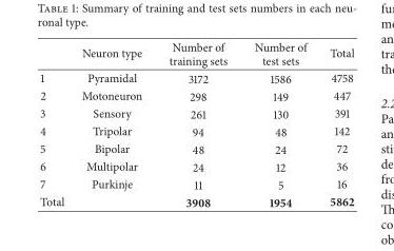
<table><thead><tr><td></td><td>Neuron type</td><td>Number of training sets</td><td>Number of test sets</td><td>Total</td></tr></thead><tbody><tr><td>1</td><td>Pyramidal</td><td>3172</td><td>1586</td><td>4758</td></tr><tr><td>2</td><td>Motoneuron</td><td>298</td><td>149</td><td>447</td></tr><tr><td>3</td><td>Sensory</td><td>261</td><td>130</td><td>391</td></tr><tr><td>4</td><td>Tripolar</td><td>94</td><td>48</td><td>142</td></tr><tr><td>5</td><td>Bipolar</td><td>48</td><td>24</td><td>72</td></tr><tr><td>6</td><td>Multipolar</td><td>24</td><td>12</td><td>36</td></tr><tr><td>7</td><td>Purkinje</td><td>11</td><td>5</td><td>16</td></tr><tr><td>Total</td><td></td><td>3908</td><td>1954</td><td>5862</td></tr></tbody></table>